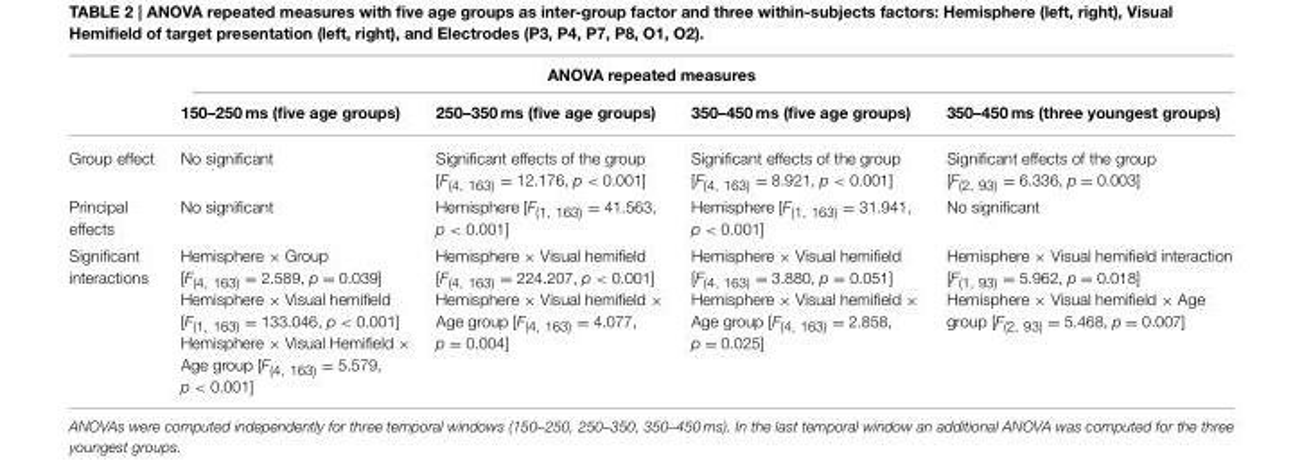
<table><thead><tr><td rowspan="2"></td><td colspan="4">ANOVA repeated measures</td></tr><tr><td>150–250 ms (five age groups)</td><td>250–350 ms (five age groups)</td><td>350–450 ms (five age groups)</td><td>350–450 ms (three youngest groups)</td></tr></thead><tbody><tr><td>Group effect</td><td>No significant</td><td>Significant effects of the group [F<sub>(4, 163)</sub> = 12.176, p &lt; 0.001]</td><td>Significant effects of the group [F<sub>(4, 163)</sub> = 8.921, p &lt; 0.001]</td><td>Significant effects of the group [F<sub>(2, 93)</sub> = 6.336, p = 0.003]</td></tr><tr><td>Principal effects</td><td>No significant</td><td>Hemisphere [F<sub>(1, 163)</sub> = 41.563, p &lt; 0.001]</td><td>Hemisphere [F<sub>(1, 163)</sub> = 31.941, p &lt; 0.001]</td><td>No significant</td></tr><tr><td>Significant interactions</td><td>Hemisphere × Group [F<sub>(4, 163)</sub> = 2.589, p = 0.039] Hemisphere × Visual hemifield [F<sub>(1, 163)</sub> = 133.046, p &lt; 0.001] Hemisphere × Visual Hemifield × Age group [F<sub>(4, 163)</sub> = 5.579, p &lt; 0.001]</td><td>Hemisphere × Visual hemifield [F<sub>(4, 163)</sub> = 224.207, p &lt; 0.001] Hemisphere × Visual hemifield × Age group [F<sub>(4, 163)</sub> = 4.077, p = 0.004]</td><td>Hemisphere × Visual hemifield [F<sub>(4, 163)</sub> = 3.880, p = 0.051] Hemisphere × Visual hemifield × Age group [F<sub>(4, 163)</sub> = 2.858, p = 0.025]</td><td>Hemisphere × Visual hemifield interaction [F<sub>(1, 93)</sub> = 5.962, p = 0.018] Hemisphere × Visual hemifield × Age group [F<sub>(2, 93)</sub> = 5.468, p = 0.007]</td></tr></tbody></table>